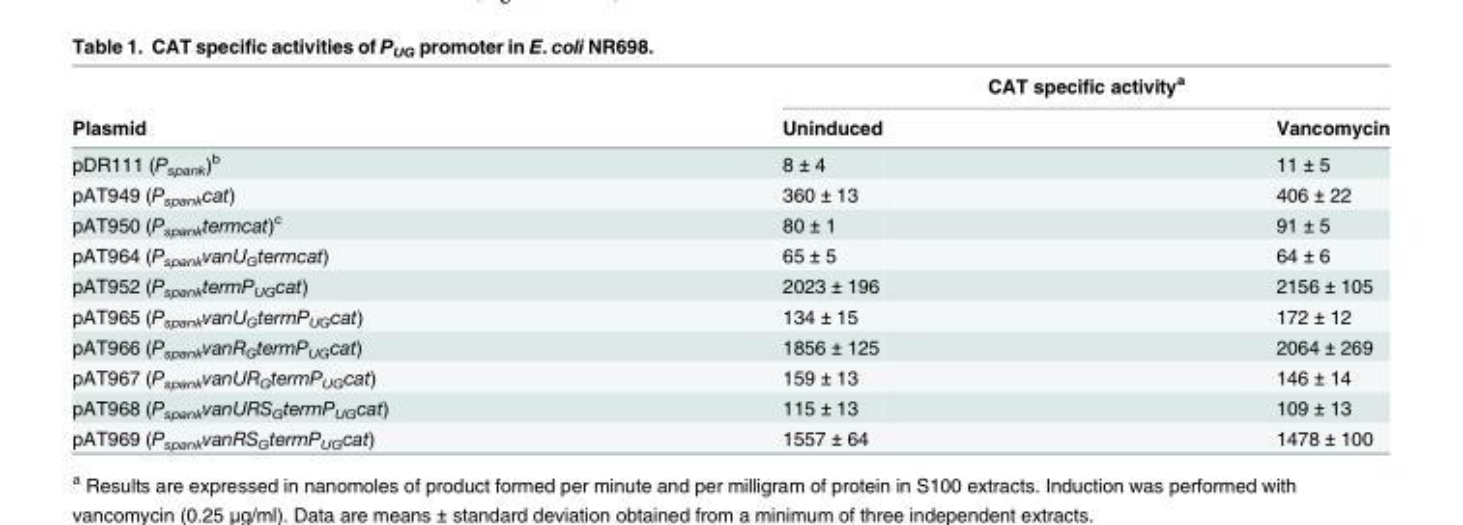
<table><thead><tr><td rowspan="2">Plasmid</td><td colspan="2">CAT specific activity<sup>a</sup></td></tr><tr><td>Uninduced</td><td>Vancomycin</td></tr></thead><tbody><tr><td>pDR111 (P<sub>spank</sub>)<sup>b</sup></td><td>8 ± 4</td><td>11 ± 5</td></tr><tr><td>pAT949 (P<sub>spank</sub>cat)</td><td>360 ± 13</td><td>406 ± 22</td></tr><tr><td>pAT950 (P<sub>spank</sub>termcat)<sup>c</sup></td><td>80 ± 1</td><td>91 ± 5</td></tr><tr><td>pAT964 (P<sub>spank</sub>vanU<sub>G</sub>termcat)</td><td>65 ± 5</td><td>64 ± 6</td></tr><tr><td>pAT952 (P<sub>spank</sub>termP<sub>UG</sub>cat)</td><td>2023 ± 196</td><td>2156 ± 105</td></tr><tr><td>pAT965 (P<sub>spank</sub>vanU<sub>G</sub>termP<sub>UG</sub>cat)</td><td>134 ± 15</td><td>172 ± 12</td></tr><tr><td>pAT966 (P<sub>spank</sub>vanR<sub>G</sub>termP<sub>UG</sub>cat)</td><td>1856 ± 125</td><td>2064 ± 269</td></tr><tr><td>pAT967 (P<sub>spank</sub>vanUR<sub>G</sub>termP<sub>UG</sub>cat)</td><td>159 ± 13</td><td>146 ± 14</td></tr><tr><td>pAT968 (P<sub>spank</sub>vanURS<sub>G</sub>termP<sub>UG</sub>cat)</td><td>115 ± 13</td><td>109 ± 13</td></tr><tr><td>pAT969 (P<sub>spank</sub>vanRS<sub>G</sub>termP<sub>UG</sub>cat)</td><td>1557 ± 64</td><td>1478 ± 100</td></tr></tbody></table>